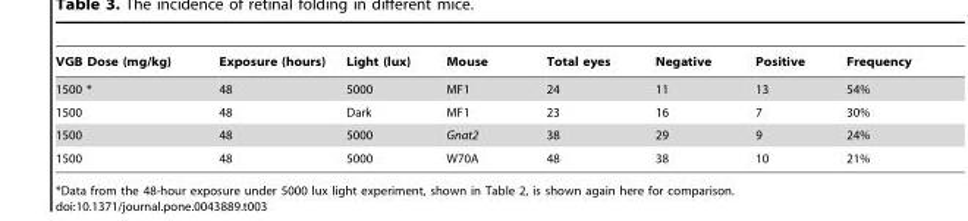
<table><thead><tr><td>VGB Dose (mg/kg)</td><td>Exposure (hours)</td><td>Light (lux)</td><td>Mouse</td><td>Total eyes</td><td>Negative</td><td>Positive</td><td>Frequency</td></tr></thead><tbody><tr><td>1500 *</td><td>48</td><td>5000</td><td>MF1</td><td>24</td><td>11</td><td>13</td><td>54%</td></tr><tr><td>1500</td><td>48</td><td>Dark</td><td>MF1</td><td>23</td><td>16</td><td>7</td><td>30%</td></tr><tr><td>1500</td><td>48</td><td>5000</td><td>Gnat2</td><td>38</td><td>29</td><td>9</td><td>24%</td></tr><tr><td>1500</td><td>48</td><td>5000</td><td>W70A</td><td>48</td><td>38</td><td>10</td><td>21%</td></tr></tbody></table>